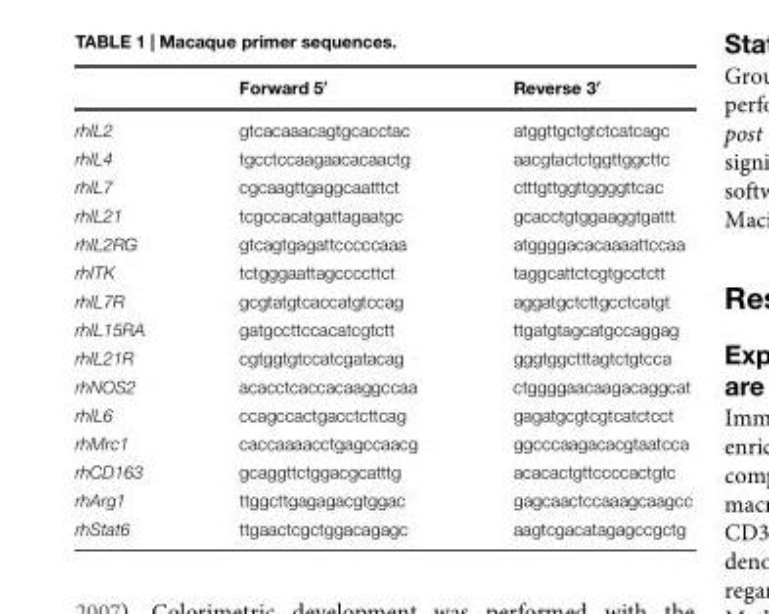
<table><thead><tr><td></td><td>Forward 5′</td><td>Reverse 3′</td></tr></thead><tbody><tr><td>rhIL2</td><td>gtcacaaacagtgcacctac</td><td>atggttgctgtctcatcagc</td></tr><tr><td>rhIL4</td><td>tgcctccaagaacacaactg</td><td>aacgtactctggttggcttc</td></tr><tr><td>rhIL7</td><td>cgcaagttgaggcaatttct</td><td>ctttgttggttggggttcac</td></tr><tr><td>rhIL21</td><td>tcgccacatgattagaatgc</td><td>gcacctgtggaaggtgattt</td></tr><tr><td>rhIL2RG</td><td>gtcagtgagattcccccaaa</td><td>atggggacacaaaattccaa</td></tr><tr><td>rhITK</td><td>tctgggaattagccccttct</td><td>taggcattctcgtgcctctt</td></tr><tr><td>rhIL7R</td><td>gcgtatgtcaccatgtccag</td><td>aggatgctcttgcctcatgt</td></tr><tr><td>rhIL15RA</td><td>gatgccttccacatcgtctt</td><td>ttgatgtagcatgccaggag</td></tr><tr><td>rhIL21R</td><td>cgtggtgtccatcgatacag</td><td>gggtggctttagtctgtcca</td></tr><tr><td>rhNOS2</td><td>acacctcaccacaaggccaa</td><td>ctggggaacaagacaggcat</td></tr><tr><td>rhIL6</td><td>ccagccactgacctcttcag</td><td>gagatgcgtcgtcatctcct</td></tr><tr><td>rhMrc1</td><td>caccaaaacctgagccaacg</td><td>ggcccaagacacgtaatcca</td></tr><tr><td>rhCD163</td><td>gcaggttctggacgcatttg</td><td>acacactgttccccactgtc</td></tr><tr><td>rhArg1</td><td>ttggcttgagagacgtggac</td><td>gagcaactccaaagcaagcc</td></tr><tr><td>rhStat6</td><td>ttgaactcgctggacagagc</td><td>aagtcgacatagagccgctg</td></tr></tbody></table>